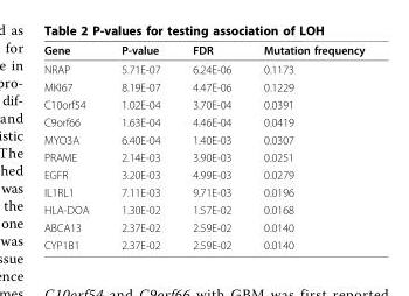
<table><thead><tr><td>Gene</td><td>P-value</td><td>FDR</td><td>Mutation frequency</td></tr></thead><tbody><tr><td>NRAP</td><td>5.71E-07</td><td>6.24E-06</td><td>0.1173</td></tr><tr><td>MKI67</td><td>8.19E-07</td><td>4.47E-06</td><td>0.1229</td></tr><tr><td>C10orf54</td><td>1.02E-04</td><td>3.70E-04</td><td>0.0391</td></tr><tr><td>C9orf66</td><td>1.63E-04</td><td>4.46E-04</td><td>0.0419</td></tr><tr><td>MYO3A</td><td>6.40E-04</td><td>1.40E-03</td><td>0.0307</td></tr><tr><td>PRAME</td><td>2.14E-03</td><td>3.90E-03</td><td>0.0251</td></tr><tr><td>EGFR</td><td>3.20E-03</td><td>4.99E-03</td><td>0.0279</td></tr><tr><td>IL1RL1</td><td>7.11E-03</td><td>9.71E-03</td><td>0.0196</td></tr><tr><td>HLA-DOA</td><td>1.30E-02</td><td>1.57E-02</td><td>0.0168</td></tr><tr><td>ABCA13</td><td>2.37E-02</td><td>2.59E-02</td><td>0.0140</td></tr><tr><td>CYP1B1</td><td>2.37E-02</td><td>2.59E-02</td><td>0.0140</td></tr></tbody></table>